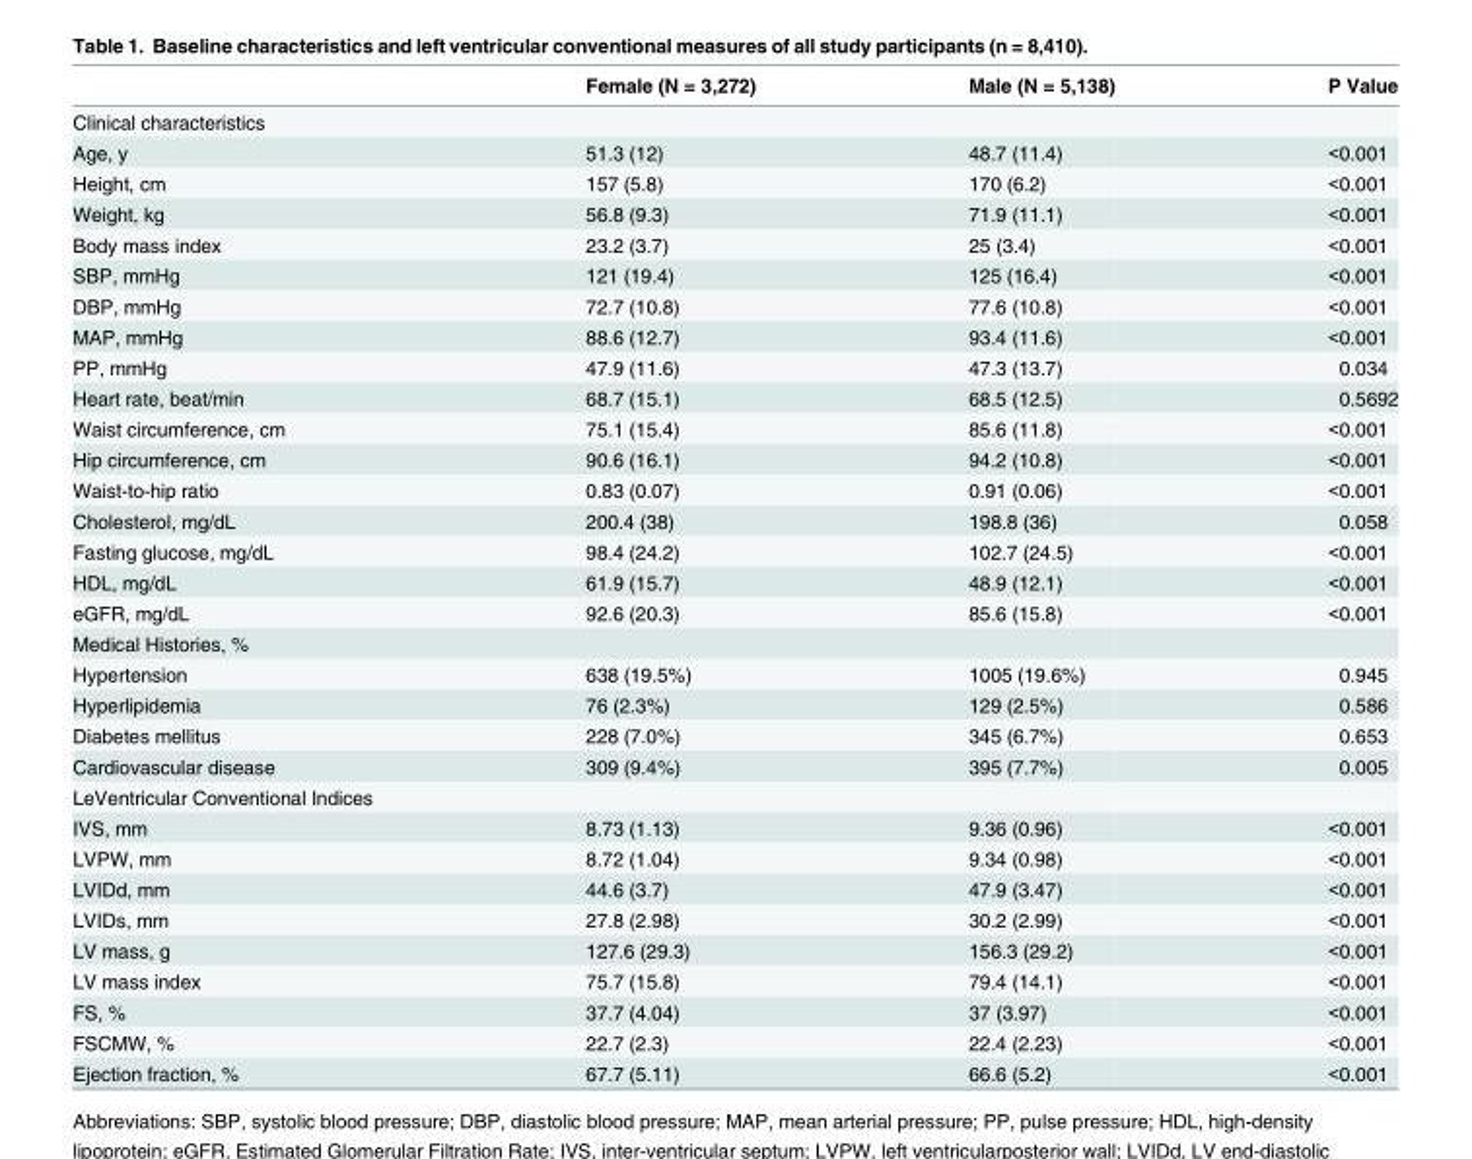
<table><thead><tr><td></td><td>Female (N = 3,272)</td><td>Male (N = 5,138)</td><td>P Value</td></tr></thead><tbody><tr><td colspan="4">Clinical characteristics</td></tr><tr><td>Age, y</td><td>51.3 (12)</td><td>48.7 (11.4)</td><td>&lt;0.001</td></tr><tr><td>Height, cm</td><td>157 (5.8)</td><td>170 (6.2)</td><td>&lt;0.001</td></tr><tr><td>Weight, kg</td><td>56.8 (9.3)</td><td>71.9 (11.1)</td><td>&lt;0.001</td></tr><tr><td>Body mass index</td><td>23.2 (3.7)</td><td>25 (3.4)</td><td>&lt;0.001</td></tr><tr><td>SBP, mmHg</td><td>121 (19.4)</td><td>125 (16.4)</td><td>&lt;0.001</td></tr><tr><td>DBP, mmHg</td><td>72.7 (10.8)</td><td>77.6 (10.8)</td><td>&lt;0.001</td></tr><tr><td>MAP, mmHg</td><td>88.6 (12.7)</td><td>93.4 (11.6)</td><td>&lt;0.001</td></tr><tr><td>PP, mmHg</td><td>47.9 (11.6)</td><td>47.3 (13.7)</td><td>0.034</td></tr><tr><td>Heart rate, beat/min</td><td>68.7 (15.1)</td><td>68.5 (12.5)</td><td>0.5692</td></tr><tr><td>Waist circumference, cm</td><td>75.1 (15.4)</td><td>85.6 (11.8)</td><td>&lt;0.001</td></tr><tr><td>Hip circumference, cm</td><td>90.6 (16.1)</td><td>94.2 (10.8)</td><td>&lt;0.001</td></tr><tr><td>Waist-to-hip ratio</td><td>0.83 (0.07)</td><td>0.91 (0.06)</td><td>&lt;0.001</td></tr><tr><td>Cholesterol, mg/dL</td><td>200.4 (38)</td><td>198.8 (36)</td><td>0.058</td></tr><tr><td>Fasting glucose, mg/dL</td><td>98.4 (24.2)</td><td>102.7 (24.5)</td><td>&lt;0.001</td></tr><tr><td>HDL, mg/dL</td><td>61.9 (15.7)</td><td>48.9 (12.1)</td><td>&lt;0.001</td></tr><tr><td>eGFR, mg/dL</td><td>92.6 (20.3)</td><td>85.6 (15.8)</td><td>&lt;0.001</td></tr><tr><td colspan="4">Medical Histories, %</td></tr><tr><td>Hypertension</td><td>638 (19.5%)</td><td>1005 (19.6%)</td><td>0.945</td></tr><tr><td>Hyperlipidemia</td><td>76 (2.3%)</td><td>129 (2.5%)</td><td>0.586</td></tr><tr><td>Diabetes mellitus</td><td>228 (7.0%)</td><td>345 (6.7%)</td><td>0.653</td></tr><tr><td>Cardiovascular disease</td><td>309 (9.4%)</td><td>395 (7.7%)</td><td>0.005</td></tr><tr><td colspan="4">LeVentricular Conventional Indices</td></tr><tr><td>IVS, mm</td><td>8.73 (1.13)</td><td>9.36 (0.96)</td><td>&lt;0.001</td></tr><tr><td>LVPW, mm</td><td>8.72 (1.04)</td><td>9.34 (0.98)</td><td>&lt;0.001</td></tr><tr><td>LVIDd, mm</td><td>44.6 (3.7)</td><td>47.9 (3.47)</td><td>&lt;0.001</td></tr><tr><td>LVIDs, mm</td><td>27.8 (2.98)</td><td>30.2 (2.99)</td><td>&lt;0.001</td></tr><tr><td>LV mass, g</td><td>127.6 (29.3)</td><td>156.3 (29.2)</td><td>&lt;0.001</td></tr><tr><td>LV mass index</td><td>75.7 (15.8)</td><td>79.4 (14.1)</td><td>&lt;0.001</td></tr><tr><td>FS, %</td><td>37.7 (4.04)</td><td>37 (3.97)</td><td>&lt;0.001</td></tr><tr><td>FSCMW, %</td><td>22.7 (2.3)</td><td>22.4 (2.23)</td><td>&lt;0.001</td></tr><tr><td>Ejection fraction, %</td><td>67.7 (5.11)</td><td>66.6 (5.2)</td><td>&lt;0.001</td></tr></tbody></table>